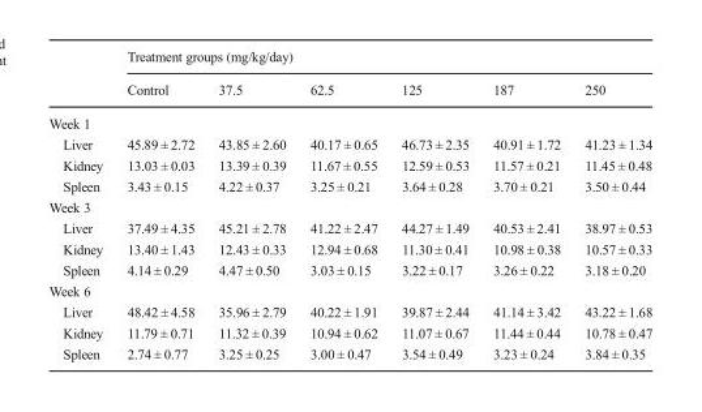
<table><thead><tr><td rowspan="2"></td><td colspan="6">Treatment groups (mg/kg/day)</td></tr><tr><td>Control</td><td>37.5</td><td>62.5</td><td>125</td><td>187</td><td>250</td></tr></thead><tbody><tr><td colspan="7">Week 1</td></tr><tr><td>Liver</td><td>45.89 ± 2.72</td><td>43.85 ± 2.60</td><td>40.17 ± 0.65</td><td>46.73 ± 2.35</td><td>40.91 ± 1.72</td><td>41.23 ± 1.34</td></tr><tr><td>Kidney</td><td>13.03 ± 0.03</td><td>13.39 ± 0.39</td><td>11.67 ± 0.55</td><td>12.59 ± 0.53</td><td>11.57 ± 0.21</td><td>11.45 ± 0.48</td></tr><tr><td>Spleen</td><td>3.43 ± 0.15</td><td>4.22 ± 0.37</td><td>3.25 ± 0.21</td><td>3.64 ± 0.28</td><td>3.70 ± 0.21</td><td>3.50 ± 0.44</td></tr><tr><td colspan="7">Week 3</td></tr><tr><td>Liver</td><td>37.49 ± 4.35</td><td>45.21 ± 2.78</td><td>41.22 ± 2.47</td><td>44.27 ± 1.49</td><td>40.53 ± 2.41</td><td>38.97 ± 0.53</td></tr><tr><td>Kidney</td><td>13.40 ± 1.43</td><td>12.43 ± 0.33</td><td>12.94 ± 0.68</td><td>11.30 ± 0.41</td><td>10.98 ± 0.38</td><td>10.57 ± 0.33</td></tr><tr><td>Spleen</td><td>4.14 ± 0.29</td><td>4.47 ± 0.50</td><td>3.03 ± 0.15</td><td>3.22 ± 0.17</td><td>3.26 ± 0.22</td><td>3.18 ± 0.20</td></tr><tr><td colspan="7">Week 6</td></tr><tr><td>Liver</td><td>48.42 ± 4.58</td><td>35.96 ± 2.79</td><td>40.22 ± 1.91</td><td>39.87 ± 2.44</td><td>41.14 ± 3.42</td><td>43.22 ± 1.68</td></tr><tr><td>Kidney</td><td>11.79 ± 0.71</td><td>11.32 ± 0.39</td><td>10.94 ± 0.62</td><td>11.07 ± 0.67</td><td>11.44 ± 0.44</td><td>10.78 ± 0.47</td></tr><tr><td>Spleen</td><td>2.74 ± 0.77</td><td>3.25 ± 0.25</td><td>3.00 ± 0.47</td><td>3.54 ± 0.49</td><td>3.23 ± 0.24</td><td>3.84 ± 0.35</td></tr></tbody></table>